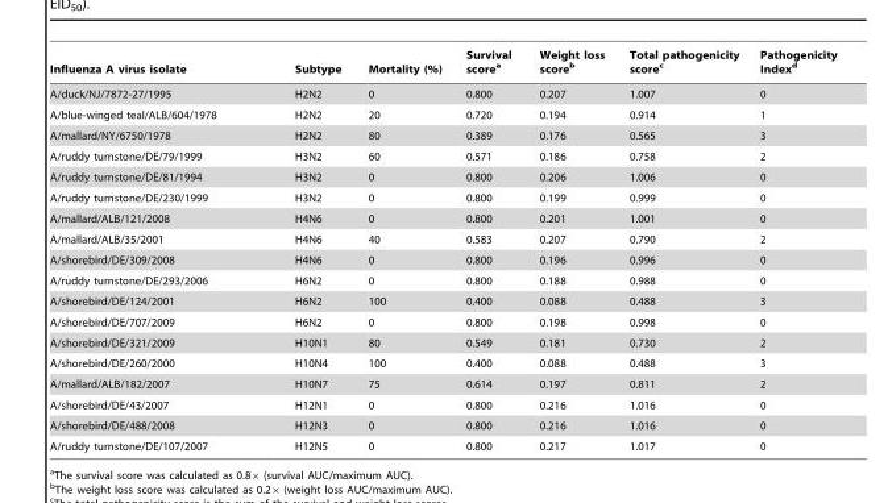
<table><thead><tr><td>Influenza A virus isolate</td><td>Subtype</td><td>Mortality (%)</td><td>Survival score<sup>a</sup></td><td>Weight loss score<sup>b</sup></td><td>Total pathogenicity score<sup>c</sup></td><td>Pathogenicity Index<sup>d</sup></td></tr></thead><tbody><tr><td>A/duck/NJ/7872-27/1995</td><td>H2N2</td><td>0</td><td>0.800</td><td>0.207</td><td>1.007</td><td>0</td></tr><tr><td>A/blue-winged teal/ALB/604/1978</td><td>H2N2</td><td>20</td><td>0.720</td><td>0.194</td><td>0.914</td><td>1</td></tr><tr><td>A/mallard/NY/6750/1978</td><td>H2N2</td><td>80</td><td>0.389</td><td>0.176</td><td>0.565</td><td>3</td></tr><tr><td>A/ruddy turnstone/DE/79/1999</td><td>H3N2</td><td>60</td><td>0.571</td><td>0.186</td><td>0.758</td><td>2</td></tr><tr><td>A/ruddy turnstone/DE/81/1994</td><td>H3N2</td><td>0</td><td>0.800</td><td>0.206</td><td>1.006</td><td>0</td></tr><tr><td>A/ruddy turnstone/DE/230/1999</td><td>H3N2</td><td>0</td><td>0.800</td><td>0.199</td><td>0.999</td><td>0</td></tr><tr><td>A/mallard/ALB/121/2008</td><td>H4N6</td><td>0</td><td>0.800</td><td>0.201</td><td>1.001</td><td>0</td></tr><tr><td>A/mallard/ALB/35/2001</td><td>H4N6</td><td>40</td><td>0.583</td><td>0.207</td><td>0.790</td><td>2</td></tr><tr><td>A/shorebird/DE/309/2008</td><td>H4N6</td><td>0</td><td>0.800</td><td>0.196</td><td>0.996</td><td>0</td></tr><tr><td>A/ruddy turnstone/DE/293/2006</td><td>H6N2</td><td>0</td><td>0.800</td><td>0.188</td><td>0.988</td><td>0</td></tr><tr><td>A/shorebird/DE/124/2001</td><td>H6N2</td><td>100</td><td>0.400</td><td>0.088</td><td>0.488</td><td>3</td></tr><tr><td>A/shorebird/DE/707/2009</td><td>H6N2</td><td>0</td><td>0.800</td><td>0.198</td><td>0.998</td><td>0</td></tr><tr><td>A/shorebird/DE/321/2009</td><td>H10N1</td><td>80</td><td>0.549</td><td>0.181</td><td>0.730</td><td>2</td></tr><tr><td>A/shorebird/DE/260/2000</td><td>H10N4</td><td>100</td><td>0.400</td><td>0.088</td><td>0.488</td><td>3</td></tr><tr><td>A/mallard/ALB/182/2007</td><td>H10N7</td><td>75</td><td>0.614</td><td>0.197</td><td>0.811</td><td>2</td></tr><tr><td>A/shorebird/DE/43/2007</td><td>H12N1</td><td>0</td><td>0.800</td><td>0.216</td><td>1.016</td><td>0</td></tr><tr><td>A/shorebird/DE/488/2008</td><td>H12N3</td><td>0</td><td>0.800</td><td>0.216</td><td>1.016</td><td>0</td></tr><tr><td>A/ruddy turnstone/DE/107/2007</td><td>H12N5</td><td>0</td><td>0.800</td><td>0.217</td><td>1.017</td><td>0</td></tr></tbody></table>